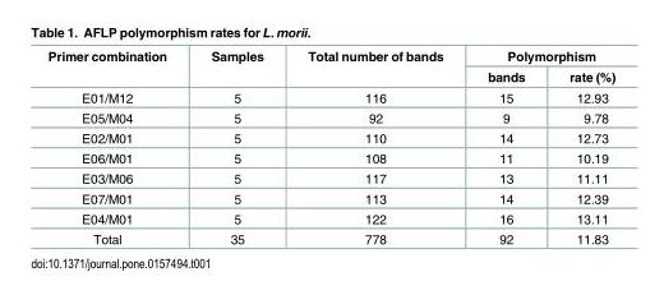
<table><thead><tr><td rowspan="2">Primer combination</td><td rowspan="2">Samples</td><td rowspan="2">Total number of bands</td><td colspan="2">Polymorphism</td></tr><tr><td>bands</td><td>rate (%)</td></tr></thead><tbody><tr><td>E01/M12</td><td>5</td><td>116</td><td>15</td><td>12.93</td></tr><tr><td>E05/M04</td><td>5</td><td>92</td><td>9</td><td>9.78</td></tr><tr><td>E02/M01</td><td>5</td><td>110</td><td>14</td><td>12.73</td></tr><tr><td>E06/M01</td><td>5</td><td>108</td><td>11</td><td>10.19</td></tr><tr><td>E03/M06</td><td>5</td><td>117</td><td>13</td><td>11.11</td></tr><tr><td>E07/M01</td><td>5</td><td>113</td><td>14</td><td>12.39</td></tr><tr><td>E04/M01</td><td>5</td><td>122</td><td>16</td><td>13.11</td></tr><tr><td>Total</td><td>35</td><td>778</td><td>92</td><td>11.83</td></tr></tbody></table>